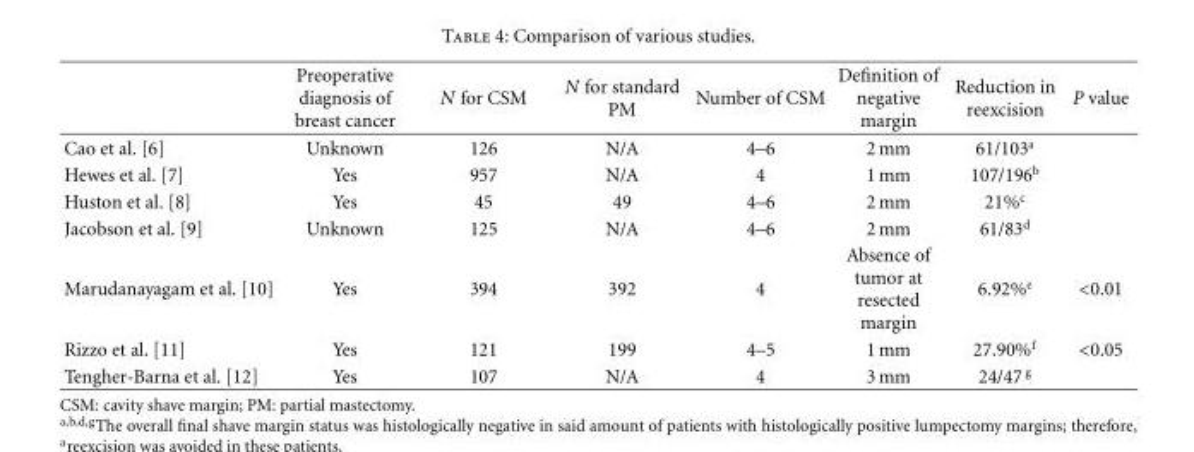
<table><thead><tr><td></td><td>Preoperative diagnosis of breast cancer</td><td>N for CSM</td><td>N for standard PM</td><td>Number of CSM</td><td>Definition of negative margin</td><td>Reduction in reexcision</td><td>P value</td></tr></thead><tbody><tr><td>Cao et al. [6]</td><td>Unknown</td><td>126</td><td>N/A</td><td>4–6</td><td>2 mm</td><td>61/103<sup>a</sup></td><td></td></tr><tr><td>Hewes et al. [7]</td><td>Yes</td><td>957</td><td>N/A</td><td>4</td><td>1 mm</td><td>107/196<sup>b</sup></td><td></td></tr><tr><td>Huston et al. [8]</td><td>Yes</td><td>45</td><td>49</td><td>4–6</td><td>2 mm</td><td>21%<sup>c</sup></td><td></td></tr><tr><td>Jacobson et al. [9]</td><td>Unknown</td><td>125</td><td>N/A</td><td>4–6</td><td>2 mm</td><td>61/83<sup>d</sup></td><td></td></tr><tr><td>Marudanayagam et al. [10]</td><td>Yes</td><td>394</td><td>392</td><td>4</td><td>Absence of tumor at resected margin</td><td>6.92%<sup>e</sup></td><td>&lt;0.01</td></tr><tr><td>Rizzo et al. [11]</td><td>Yes</td><td>121</td><td>199</td><td>4–5</td><td>1 mm</td><td>27.90%<sup>f</sup></td><td>&lt;0.05</td></tr><tr><td>Tengher-Barna et al. [12]</td><td>Yes</td><td>107</td><td>N/A</td><td>4</td><td>3 mm</td><td>24/47 <sup>g</sup></td><td></td></tr></tbody></table>